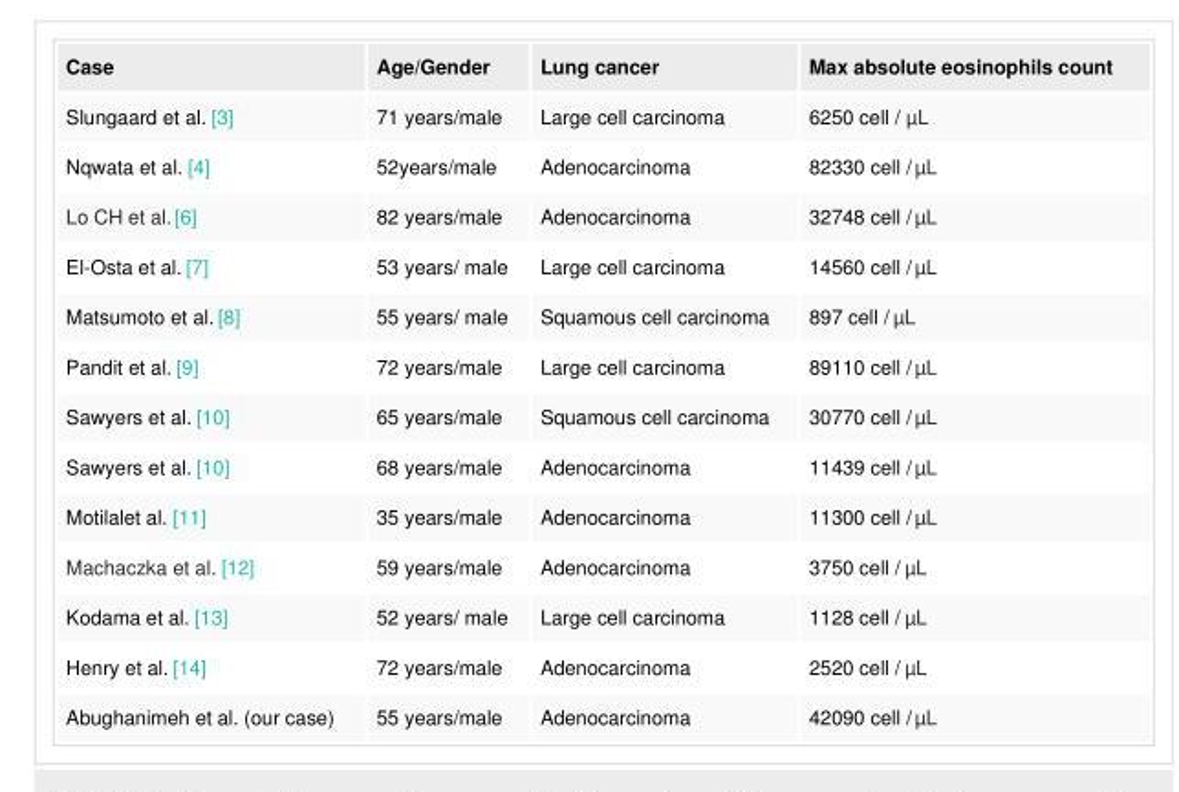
<table><tbody><tr><td>Case</td><td>Age/Gender</td><td>Lung cancer</td><td>Max absolute eosinophils count</td></tr><tr><td>Slungaard et al. [3]</td><td>71 years/male</td><td>Large cell carcinoma</td><td>6250 cell / µL</td></tr><tr><td>Nqwata et al. [4]</td><td>52years/male</td><td>Adenocarcinoma</td><td>82330 cell / µL</td></tr><tr><td>Lo CH et al. [6]</td><td>82 years/male</td><td>Adenocarcinoma</td><td>32748 cell / µL</td></tr><tr><td>El-Osta et al. [7]</td><td>53 years/ male</td><td>Large cell carcinoma</td><td>14560 cell / µL</td></tr><tr><td>Matsumoto et al. [8]</td><td>55 years/ male</td><td>Squamous cell carcinoma</td><td>897 cell / µL</td></tr><tr><td>Pandit et al. [9]</td><td>72 years/male</td><td>Large cell carcinoma</td><td>89110 cell / µL</td></tr><tr><td>Sawyers et al. [10]</td><td>65 years/male</td><td>Squamous cell carcinoma</td><td>30770 cell / µL</td></tr><tr><td>Sawyers et al. [10]</td><td>68 years/male</td><td>Adenocarcinoma</td><td>11439 cell / µL</td></tr><tr><td>Motilalet al. [11]</td><td>35 years/male</td><td>Adenocarcinoma</td><td>11300 cell / µL</td></tr><tr><td>Machaczka et al. [12]</td><td>59 years/male</td><td>Adenocarcinoma</td><td>3750 cell / µL</td></tr><tr><td>Kodama et al. [13]</td><td>52 years/ male</td><td>Large cell carcinoma</td><td>1128 cell / µL</td></tr><tr><td>Henry et al. [14]</td><td>72 years/male</td><td>Adenocarcinoma</td><td>2520 cell / µL</td></tr><tr><td>Abughanimeh et al. (our case)</td><td>55 years/male</td><td>Adenocarcinoma</td><td>42090 cell / µL</td></tr></tbody></table>